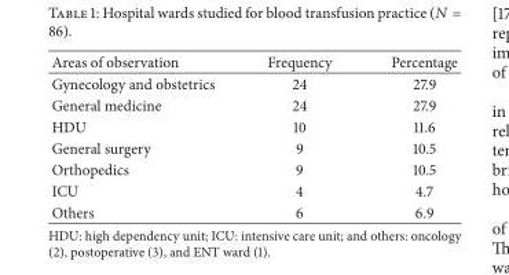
<table><thead><tr><td>Areas of observation</td><td>Frequency</td><td>Percentage</td></tr></thead><tbody><tr><td>Gynecology and obstetrics</td><td>24</td><td>27.9</td></tr><tr><td>General medicine</td><td>24</td><td>27.9</td></tr><tr><td>HDU</td><td>10</td><td>11.6</td></tr><tr><td>General surgery</td><td>9</td><td>10.5</td></tr><tr><td>Orthopedics</td><td>9</td><td>10.5</td></tr><tr><td>ICU</td><td>4</td><td>4.7</td></tr><tr><td>Others</td><td>6</td><td>6.9</td></tr></tbody></table>